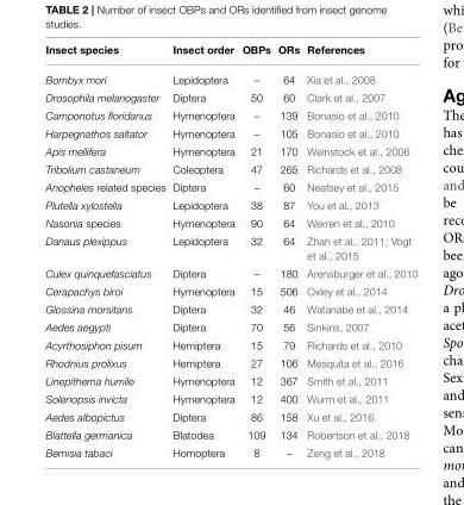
<table><thead><tr><td>Insect species</td><td>Insect order</td><td>OBPs</td><td>ORs</td><td>References</td></tr></thead><tbody><tr><td>Bombyx mori</td><td>Lepidoptera</td><td>–</td><td>64</td><td>Xia et al., 2008</td></tr><tr><td>Drosophila melanogaster</td><td>Diptera</td><td>50</td><td>60</td><td>Clark et al., 2007</td></tr><tr><td>Camponotus floridanus</td><td>Hymenoptera</td><td>–</td><td>139</td><td>Bonasio et al., 2010</td></tr><tr><td>Harpegnathos saltator</td><td>Hymenoptera</td><td>–</td><td>105</td><td>Bonasio et al., 2010</td></tr><tr><td>Apis mellifera</td><td>Hymenoptera</td><td>21</td><td>170</td><td>Weinstock et al., 2006</td></tr><tr><td>Tribolium castaneum</td><td>Coleoptera</td><td>47</td><td>265</td><td>Richards et al., 2008</td></tr><tr><td>Anopheles related species</td><td>Diptera</td><td>–</td><td>60</td><td>Neafsey et al., 2015</td></tr><tr><td>Plutella xylostella</td><td>Lepidoptera</td><td>38</td><td>87</td><td>You et al., 2013</td></tr><tr><td>Nasonia species</td><td>Hymenoptera</td><td>90</td><td>64</td><td>Werren et al., 2010</td></tr><tr><td>Danaus plexippus</td><td>Lepidoptera</td><td>32</td><td>64</td><td>Zhan et al., 2011; Vogt et al., 2015</td></tr><tr><td>Culex quinquefasciatus</td><td>Diptera</td><td>–</td><td>180</td><td>Arensburger et al., 2010</td></tr><tr><td>Cerapachys biroi</td><td>Hymenoptera</td><td>15</td><td>506</td><td>Oxley et al., 2014</td></tr><tr><td>Glossina morsitans</td><td>Diptera</td><td>32</td><td>46</td><td>Watanabe et al., 2014</td></tr><tr><td>Aedes aegypti</td><td>Diptera</td><td>70</td><td>56</td><td>Sinkins, 2007</td></tr><tr><td>Acyrthosiphon pisum</td><td>Hemiptera</td><td>15</td><td>79</td><td>Richards et al., 2010</td></tr><tr><td>Rhodnius prolixus</td><td>Hemiptera</td><td>27</td><td>106</td><td>Mesquita et al., 2016</td></tr><tr><td>Linepithema humile</td><td>Hymenoptera</td><td>12</td><td>367</td><td>Smith et al., 2011</td></tr><tr><td>Solenopsis invicta</td><td>Hymenoptera</td><td>12</td><td>400</td><td>Wurm et al., 2011</td></tr><tr><td>Aedes albopictus</td><td>Diptera</td><td>86</td><td>158</td><td>Xu et al., 2016</td></tr><tr><td>Blattella germanica</td><td>Blatodea</td><td>109</td><td>134</td><td>Robertson et al., 2018</td></tr><tr><td>Bemisia tabaci</td><td>Homoptera</td><td>8</td><td>–</td><td>Zeng et al., 2018</td></tr></tbody></table>